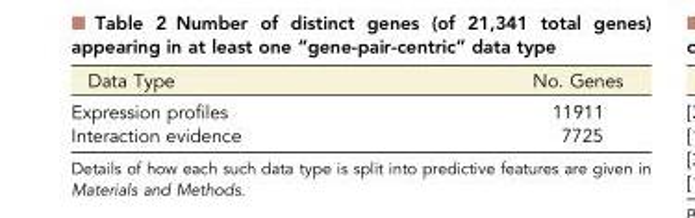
<table><thead><tr><td>Data Type</td><td>No. Genes</td></tr></thead><tbody><tr><td>Expression profiles</td><td>11911</td></tr><tr><td>Interaction evidence</td><td>7725</td></tr></tbody></table>